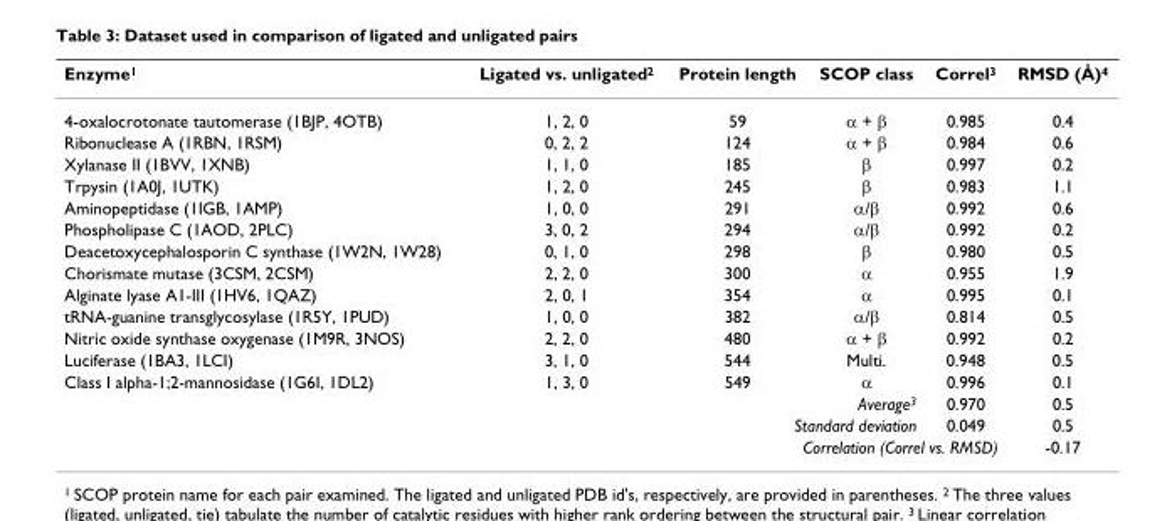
<table><thead><tr><td>Enzyme<sup>1</sup></td><td>Ligated vs. unligated<sup>2</sup></td><td>Protein length</td><td>SCOP class</td><td>Correl<sup>3</sup></td><td>RMSD (Å)<sup>4</sup></td></tr></thead><tbody><tr><td>4-oxalocrotonate tautomerase (1BJP, 4OTB)</td><td>1, 2, 0</td><td>59</td><td>α + β</td><td>0.985</td><td>0.4</td></tr><tr><td>Ribonuclease A (1RBN, 1RSM)</td><td>0, 2, 2</td><td>124</td><td>α + β</td><td>0.984</td><td>0.6</td></tr><tr><td>Xylanase II (1BVV, 1XNB)</td><td>1, 1, 0</td><td>185</td><td>β</td><td>0.997</td><td>0.2</td></tr><tr><td>Trpysin (1A0J, 1UTK)</td><td>1, 2, 0</td><td>245</td><td>β</td><td>0.983</td><td>1.1</td></tr><tr><td>Aminopeptidase (1IGB, 1AMP)</td><td>1, 0, 0</td><td>291</td><td>α/β</td><td>0.992</td><td>0.6</td></tr><tr><td>Phospholipase C (1AOD, 2PLC)</td><td>3, 0, 2</td><td>294</td><td>α/β</td><td>0.992</td><td>0.2</td></tr><tr><td>Deacetoxycephalosporin C synthase (1W2N, 1W28)</td><td>0, 1, 0</td><td>298</td><td>β</td><td>0.980</td><td>0.5</td></tr><tr><td>Chorismate mutase (3CSM, 2CSM)</td><td>2, 2, 0</td><td>300</td><td>α</td><td>0.955</td><td>1.9</td></tr><tr><td>Alginate lyase A1-III (1HV6, 1QAZ)</td><td>2, 0, 1</td><td>354</td><td>α</td><td>0.995</td><td>0.1</td></tr><tr><td>tRNA-guanine transglycosylase (1R5Y, 1PUD)</td><td>1, 0, 0</td><td>382</td><td>α/β</td><td>0.814</td><td>0.5</td></tr><tr><td>Nitric oxide synthase oxygenase (1M9R, 3NOS)</td><td>2, 2, 0</td><td>480</td><td>α + β</td><td>0.992</td><td>0.2</td></tr><tr><td>Luciferase (1BA3, 1LCI)</td><td>3, 1, 0</td><td>544</td><td>Multi.</td><td>0.948</td><td>0.5</td></tr><tr><td>Class I alpha-1;2-mannosidase (1G6I, 1DL2)</td><td>1, 3, 0</td><td>549</td><td>α</td><td>0.996</td><td>0.1</td></tr><tr><td colspan="4">Average<sup>3</sup></td><td>0.970</td><td>0.5</td></tr><tr><td colspan="4">Standard deviation</td><td>0.049</td><td>0.5</td></tr><tr><td colspan="5">Correlation (Correl vs. RMSD)</td><td>-0.17</td></tr></tbody></table>